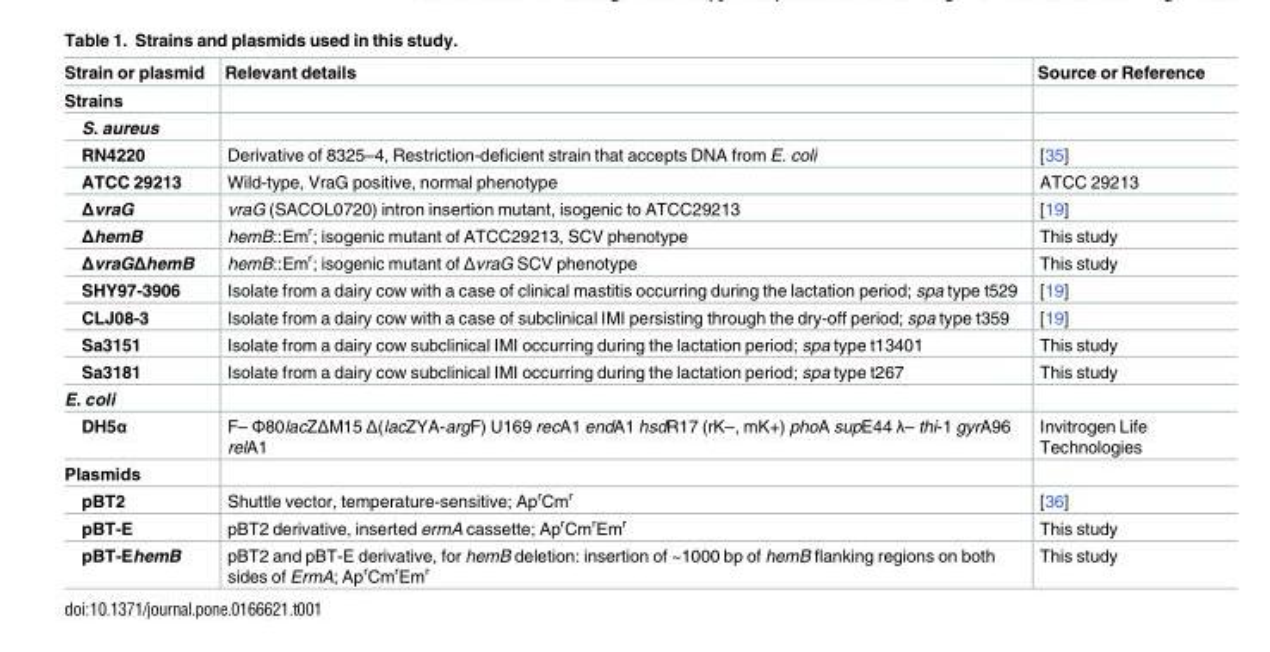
<table><thead><tr><td>Strain or plasmid</td><td>Relevant details</td><td>Source or Reference</td></tr></thead><tbody><tr><td colspan="3">Strains</td></tr><tr><td colspan="3">S. aureus</td></tr><tr><td>RN4220</td><td>Derivative of 8325–4, Restriction-deficient strain that accepts DNA from E. coli</td><td>[35]</td></tr><tr><td>ATCC 29213</td><td>Wild-type, VraG positive, normal phenotype</td><td>ATCC 29213</td></tr><tr><td>ΔvraG</td><td>vraG (SACOL0720) intron insertion mutant, isogenic to ATCC29213</td><td>[19]</td></tr><tr><td>ΔhemB</td><td>hemB::Em<sup>r</sup>; isogenic mutant of ATCC29213, SCV phenotype</td><td>This study</td></tr><tr><td>ΔvraGΔhemB</td><td>hemB::Em<sup>r</sup>; isogenic mutant of ΔvraG SCV phenotype</td><td>This study</td></tr><tr><td>SHY97-3906</td><td>Isolate from a dairy cow with a case of clinical mastitis occurring during the lactation period; spa type t529</td><td>[19]</td></tr><tr><td>CLJ08-3</td><td>Isolate from a dairy cow with a case of subclinical IMI persisting through the dry-off period; spa type t359</td><td>[19]</td></tr><tr><td>Sa3151</td><td>Isolate from a dairy cow subclinical IMI occurring during the lactation period; spa type t13401</td><td>This study</td></tr><tr><td>Sa3181</td><td>Isolate from a dairy cow subclinical IMI occurring during the lactation period; spa type t267</td><td>This study</td></tr><tr><td colspan="3">E. coli</td></tr><tr><td>DH5α</td><td>F– Φ80lacZΔM15 Δ(lacZYA-argF) U169 recA1 endA1 hsdR17 (rK–, mK+) phoA supE44 λ– thi-1 gyrA96 relA1</td><td>Invitrogen Life Technologies</td></tr><tr><td colspan="3">Plasmids</td></tr><tr><td>pBT2</td><td>Shuttle vector, temperature-sensitive; Ap<sup>r</sup>Cm<sup>r</sup></td><td>[36]</td></tr><tr><td>pBT-E</td><td>pBT2 derivative, inserted ermA cassette; Ap<sup>r</sup>Cm<sup>r</sup>Em<sup>r</sup></td><td>This study</td></tr><tr><td>pBT-EhemB</td><td>pBT2 and pBT-E derivative, for hemB deletion: insertion of ~1000 bp of hemB flanking regions on both sides of ErmA; Ap<sup>r</sup>Cm<sup>r</sup>Em<sup>r</sup></td><td>This study</td></tr></tbody></table>